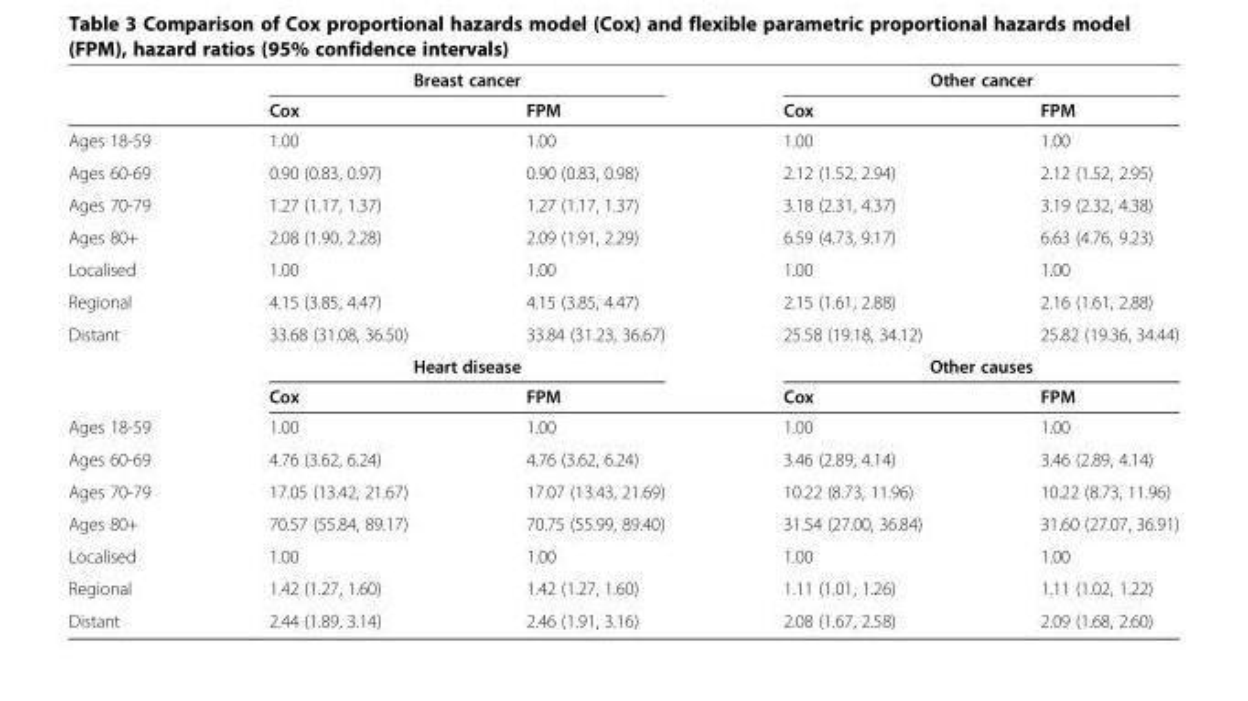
<table><thead><tr><td rowspan="2"></td><td colspan="2">Breast cancer</td><td colspan="2">Other cancer</td></tr><tr><td>Cox</td><td>FPM</td><td>Cox</td><td>FPM</td></tr></thead><tbody><tr><td>Ages 18-59</td><td>1.00</td><td>1.00</td><td>1.00</td><td>1.00</td></tr><tr><td>Ages 60-69</td><td>0.90 (0.83, 0.97)</td><td>0.90 (0.83, 0.98)</td><td>2.12 (1.52, 2.94)</td><td>2.12 (1.52, 2.95)</td></tr><tr><td>Ages 70-79</td><td>1.27 (1.17, 1.37)</td><td>1.27 (1.17, 1.37)</td><td>3.18 (2.31, 4.37)</td><td>3.19 (2.32, 4.38)</td></tr><tr><td>Ages 80+</td><td>2.08 (1.90, 2.28)</td><td>2.09 (1.91, 2.29)</td><td>6.59 (4.73, 9.17)</td><td>6.63 (4.76, 9.23)</td></tr><tr><td>Localised</td><td>1.00</td><td>1.00</td><td>1.00</td><td>1.00</td></tr><tr><td>Regional</td><td>4.15 (3.85, 4.47)</td><td>4.15 (3.85, 4.47)</td><td>2.15 (1.61, 2.88)</td><td>2.16 (1.61, 2.88)</td></tr><tr><td rowspan="3">Distant</td><td>33.68 (31.08, 36.50)</td><td>33.84 (31.23, 36.67)</td><td>25.58 (19.18, 34.12)</td><td>25.82 (19.36, 34.44)</td></tr><tr><td colspan="2">Heart disease</td><td colspan="2">Other causes</td></tr><tr><td>Cox</td><td>FPM</td><td>Cox</td><td>FPM</td></tr><tr><td>Ages 18-59</td><td>1.00</td><td>1.00</td><td>1.00</td><td>1.00</td></tr><tr><td>Ages 60-69</td><td>4.76 (3.62, 6.24)</td><td>4.76 (3.62, 6.24)</td><td>3.46 (2.89, 4.14)</td><td>3.46 (2.89, 4.14)</td></tr><tr><td>Ages 70-79</td><td>17.05 (13.42, 21.67)</td><td>17.07 (13.43, 21.69)</td><td>10.22 (8.73, 11.96)</td><td>10.22 (8.73, 11.96)</td></tr><tr><td>Ages 80+</td><td>70.57 (55.84, 89.17)</td><td>70.75 (55.99, 89.40)</td><td>31.54 (27.00, 36.84)</td><td>31.60 (27.07, 36.91)</td></tr><tr><td>Localised</td><td>1.00</td><td>1.00</td><td>1.00</td><td>1.00</td></tr><tr><td>Regional</td><td>1.42 (1.27, 1.60)</td><td>1.42 (1.27, 1.60)</td><td>1.11 (1.01, 1.26)</td><td>1.11 (1.02, 1.22)</td></tr><tr><td>Distant</td><td>2.44 (1.89, 3.14)</td><td>2.46 (1.91, 3.16)</td><td>2.08 (1.67, 2.58)</td><td>2.09 (1.68, 2.60)</td></tr></tbody></table>